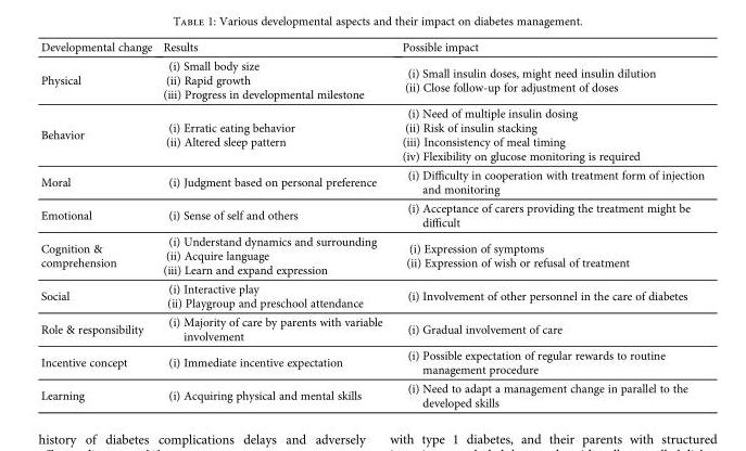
<table><thead><tr><td>Developmental change</td><td>Results</td><td>Possible impact</td></tr></thead><tbody><tr><td>Physical</td><td>(i) Small body size (ii) Rapid growth (iii) Progress in developmental milestone</td><td>(i) Small insulin doses, might need insulin dilution (ii) Close follow-up for adjustment of doses</td></tr><tr><td>Behavior</td><td>(i) Erratic eating behavior (ii) Altered sleep pattern</td><td>(i) Need of multiple insulin dosing (ii) Risk of insulin stacking (iii) Inconsistency of meal timing (iv) Flexibility on glucose monitoring is required</td></tr><tr><td>Moral</td><td>(i) Judgment based on personal preference</td><td>(i) Difficulty in cooperation with treatment form of injection and monitoring</td></tr><tr><td>Emotional</td><td>(i) Sense of self and others</td><td>(i) Acceptance of carers providing the treatment might be difficult</td></tr><tr><td>Cognition &amp; comprehension</td><td>(i) Understand dynamics and surrounding (ii) Acquire language (iii) Learn and expand expression</td><td>(i) Expression of symptoms (ii) Expression of wish or refusal of treatment</td></tr><tr><td>Social</td><td>(i) Interactive play (ii) Playgroup and preschool attendance</td><td>(i) Involvement of other personnel in the care of diabetes</td></tr><tr><td>Role &amp; responsibility</td><td>(i) Majority of care by parents with variable involvement</td><td>(i) Gradual involvement of care</td></tr><tr><td>Incentive concept</td><td>(i) Immediate incentive expectation</td><td>(i) Possible expectation of regular rewards to routine management procedure</td></tr><tr><td>Learning</td><td>(i) Acquiring physical and mental skills</td><td>(i) Need to adapt a management change in parallel to the developed skills</td></tr></tbody></table>